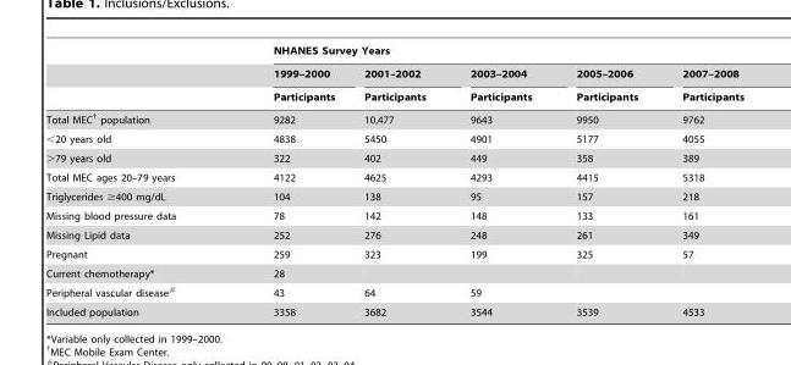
<table><thead><tr><td rowspan="3"></td><td colspan="5">NHANES Survey Years</td></tr><tr><td rowspan="2">1999–2000 Participants</td><td rowspan="2">2001–2002 Participants</td><td rowspan="2">2003–2004 Participants</td><td rowspan="2">2005–2006 Participants</td><td rowspan="2">2007–2008 Participants</td></tr><tr></tr></thead><tbody><tr><td>Total MEC† population</td><td>9282</td><td>10,477</td><td>9643</td><td>9950</td><td>9762</td></tr><tr><td>&lt;20 years old</td><td>4838</td><td>5450</td><td>4901</td><td>5177</td><td>4055</td></tr><tr><td>&gt;79 years old</td><td>322</td><td>402</td><td>449</td><td>358</td><td>389</td></tr><tr><td>Total MEC ages 20–79 years</td><td>4122</td><td>4625</td><td>4293</td><td>4415</td><td>5318</td></tr><tr><td>Triglycerides ≥400 mg/dL</td><td>104</td><td>138</td><td>95</td><td>157</td><td>218</td></tr><tr><td>Missing blood pressure data</td><td>78</td><td>142</td><td>148</td><td>133</td><td>161</td></tr><tr><td>Missing Lipid data</td><td>252</td><td>276</td><td>248</td><td>261</td><td>349</td></tr><tr><td>Pregnant</td><td>259</td><td>323</td><td>199</td><td>325</td><td>57</td></tr><tr><td>Current chemotherapy*</td><td>28</td><td></td><td></td><td></td><td></td></tr><tr><td>Peripheral vascular disease#</td><td>43</td><td>64</td><td>59</td><td></td><td></td></tr><tr><td>Included population</td><td>3358</td><td>3682</td><td>3544</td><td>3539</td><td>4533</td></tr></tbody></table>